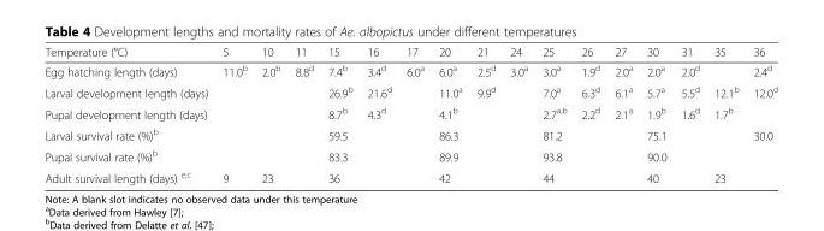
<table><thead><tr><td>Temperature (°C)</td><td>5</td><td>10</td><td>11</td><td>15</td><td>16</td><td>17</td><td>20</td><td>21</td><td>24</td><td>25</td><td>26</td><td>27</td><td>30</td><td>31</td><td>35</td><td>36</td></tr></thead><tbody><tr><td>Egg hatching length (days)</td><td>11.0<sup>b</sup></td><td>2.0<sup>b</sup></td><td>8.8<sup>d</sup></td><td>7.4<sup>b</sup></td><td>3.4<sup>d</sup></td><td>6.0<sup>a</sup></td><td>6.0<sup>a</sup></td><td>2.5<sup>d</sup></td><td>3.0<sup>a</sup></td><td>3.0<sup>a</sup></td><td>1.9<sup>d</sup></td><td>2.0<sup>a</sup></td><td>2.0<sup>a</sup></td><td>2.0<sup>d</sup></td><td></td><td>2.4<sup>d</sup></td></tr><tr><td>Larval development length (days)</td><td></td><td></td><td></td><td>26.9<sup>b</sup></td><td>21.6<sup>d</sup></td><td></td><td>11.0<sup>a</sup></td><td>9.9<sup>d</sup></td><td></td><td>7.0<sup>a</sup></td><td>6.3<sup>d</sup></td><td>6.1<sup>a</sup></td><td>5.7<sup>a</sup></td><td>5.5<sup>d</sup></td><td>12.1<sup>b</sup></td><td>12.0<sup>d</sup></td></tr><tr><td>Pupal development length (days)</td><td></td><td></td><td></td><td>8.7<sup>b</sup></td><td>4.3<sup>d</sup></td><td></td><td>4.1<sup>b</sup></td><td></td><td></td><td>2.7<sup>a,b</sup></td><td>2.2<sup>d</sup></td><td>2.1<sup>a</sup></td><td>1.9<sup>b</sup></td><td>1.6<sup>d</sup></td><td>1.7<sup>b</sup></td><td></td></tr><tr><td>Larval survival rate (%)<sup>b</sup></td><td></td><td></td><td></td><td>59.5</td><td></td><td></td><td>86.3</td><td></td><td></td><td>81.2</td><td></td><td></td><td>75.1</td><td></td><td></td><td>30.0</td></tr><tr><td>Pupal survival rate (%)<sup>b</sup></td><td></td><td></td><td></td><td>83.3</td><td></td><td></td><td>89.9</td><td></td><td></td><td>93.8</td><td></td><td></td><td>90.0</td><td></td><td></td><td></td></tr><tr><td>Adult survival length (days) <sup>e,c</sup></td><td>9</td><td>23</td><td></td><td>36</td><td></td><td></td><td>42</td><td></td><td></td><td>44</td><td></td><td></td><td>40</td><td></td><td>23</td><td></td></tr></tbody></table>